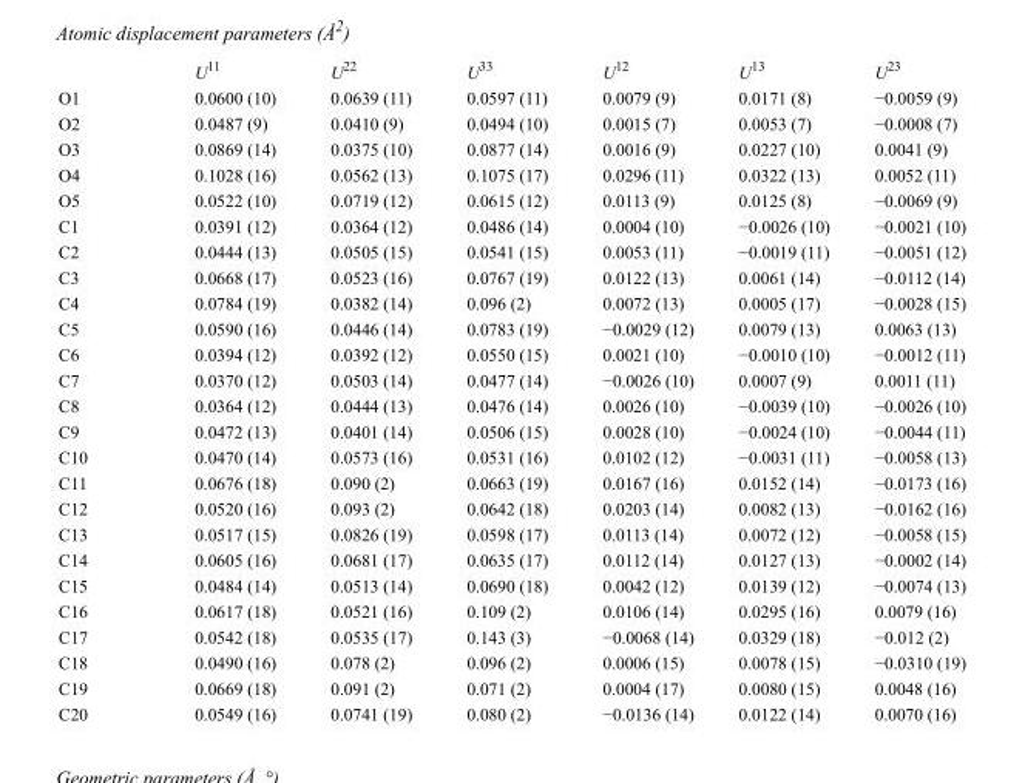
<table><thead><tr><td></td><td>U<sup>11</sup></td><td>U<sup>22</sup></td><td>U<sup>33</sup></td><td>U<sup>12</sup></td><td>U<sup>13</sup></td><td>U<sup>23</sup></td></tr></thead><tbody><tr><td>O1</td><td>0.0600 (10)</td><td>0.0639 (11)</td><td>0.0597 (11)</td><td>0.0079 (9)</td><td>0.0171 (8)</td><td>−0.0059 (9)</td></tr><tr><td>O2</td><td>0.0487 (9)</td><td>0.0410 (9)</td><td>0.0494 (10)</td><td>0.0015 (7)</td><td>0.0053 (7)</td><td>−0.0008 (7)</td></tr><tr><td>O3</td><td>0.0869 (14)</td><td>0.0375 (10)</td><td>0.0877 (14)</td><td>0.0016 (9)</td><td>0.0227 (10)</td><td>0.0041 (9)</td></tr><tr><td>O4</td><td>0.1028 (16)</td><td>0.0562 (13)</td><td>0.1075 (17)</td><td>0.0296 (11)</td><td>0.0322 (13)</td><td>0.0052 (11)</td></tr><tr><td>O5</td><td>0.0522 (10)</td><td>0.0719 (12)</td><td>0.0615 (12)</td><td>0.0113 (9)</td><td>0.0125 (8)</td><td>−0.0069 (9)</td></tr><tr><td>C1</td><td>0.0391 (12)</td><td>0.0364 (12)</td><td>0.0486 (14)</td><td>0.0004 (10)</td><td>−0.0026 (10)</td><td>−0.0021 (10)</td></tr><tr><td>C2</td><td>0.0444 (13)</td><td>0.0505 (15)</td><td>0.0541 (15)</td><td>0.0053 (11)</td><td>−0.0019 (11)</td><td>−0.0051 (12)</td></tr><tr><td>C3</td><td>0.0668 (17)</td><td>0.0523 (16)</td><td>0.0767 (19)</td><td>0.0122 (13)</td><td>0.0061 (14)</td><td>−0.0112 (14)</td></tr><tr><td>C4</td><td>0.0784 (19)</td><td>0.0382 (14)</td><td>0.096 (2)</td><td>0.0072 (13)</td><td>0.0005 (17)</td><td>−0.0028 (15)</td></tr><tr><td>C5</td><td>0.0590 (16)</td><td>0.0446 (14)</td><td>0.0783 (19)</td><td>−0.0029 (12)</td><td>0.0079 (13)</td><td>0.0063 (13)</td></tr><tr><td>C6</td><td>0.0394 (12)</td><td>0.0392 (12)</td><td>0.0550 (15)</td><td>0.0021 (10)</td><td>−0.0010 (10)</td><td>−0.0012 (11)</td></tr><tr><td>C7</td><td>0.0370 (12)</td><td>0.0503 (14)</td><td>0.0477 (14)</td><td>−0.0026 (10)</td><td>0.0007 (9)</td><td>0.0011 (11)</td></tr><tr><td>C8</td><td>0.0364 (12)</td><td>0.0444 (13)</td><td>0.0476 (14)</td><td>0.0026 (10)</td><td>−0.0039 (10)</td><td>−0.0026 (10)</td></tr><tr><td>C9</td><td>0.0472 (13)</td><td>0.0401 (14)</td><td>0.0506 (15)</td><td>0.0028 (10)</td><td>−0.0024 (10)</td><td>−0.0044 (11)</td></tr><tr><td>C10</td><td>0.0470 (14)</td><td>0.0573 (16)</td><td>0.0531 (16)</td><td>0.0102 (12)</td><td>−0.0031 (11)</td><td>−0.0058 (13)</td></tr><tr><td>C11</td><td>0.0676 (18)</td><td>0.090 (2)</td><td>0.0663 (19)</td><td>0.0167 (16)</td><td>0.0152 (14)</td><td>−0.0173 (16)</td></tr><tr><td>C12</td><td>0.0520 (16)</td><td>0.093 (2)</td><td>0.0642 (18)</td><td>0.0203 (14)</td><td>0.0082 (13)</td><td>−0.0162 (16)</td></tr><tr><td>C13</td><td>0.0517 (15)</td><td>0.0826 (19)</td><td>0.0598 (17)</td><td>0.0113 (14)</td><td>0.0072 (12)</td><td>−0.0058 (15)</td></tr><tr><td>C14</td><td>0.0605 (16)</td><td>0.0681 (17)</td><td>0.0635 (17)</td><td>0.0112 (14)</td><td>0.0127 (13)</td><td>−0.0002 (14)</td></tr><tr><td>C15</td><td>0.0484 (14)</td><td>0.0513 (14)</td><td>0.0690 (18)</td><td>0.0042 (12)</td><td>0.0139 (12)</td><td>−0.0074 (13)</td></tr><tr><td>C16</td><td>0.0617 (18)</td><td>0.0521 (16)</td><td>0.109 (2)</td><td>0.0106 (14)</td><td>0.0295 (16)</td><td>0.0079 (16)</td></tr><tr><td>C17</td><td>0.0542 (18)</td><td>0.0535 (17)</td><td>0.143 (3)</td><td>−0.0068 (14)</td><td>0.0329 (18)</td><td>−0.012 (2)</td></tr><tr><td>C18</td><td>0.0490 (16)</td><td>0.078 (2)</td><td>0.096 (2)</td><td>0.0006 (15)</td><td>0.0078 (15)</td><td>−0.0310 (19)</td></tr><tr><td>C19</td><td>0.0669 (18)</td><td>0.091 (2)</td><td>0.071 (2)</td><td>0.0004 (17)</td><td>0.0080 (15)</td><td>0.0048 (16)</td></tr><tr><td>C20</td><td>0.0549 (16)</td><td>0.0741 (19)</td><td>0.080 (2)</td><td>−0.0136 (14)</td><td>0.0122 (14)</td><td>0.0070 (16)</td></tr></tbody></table>